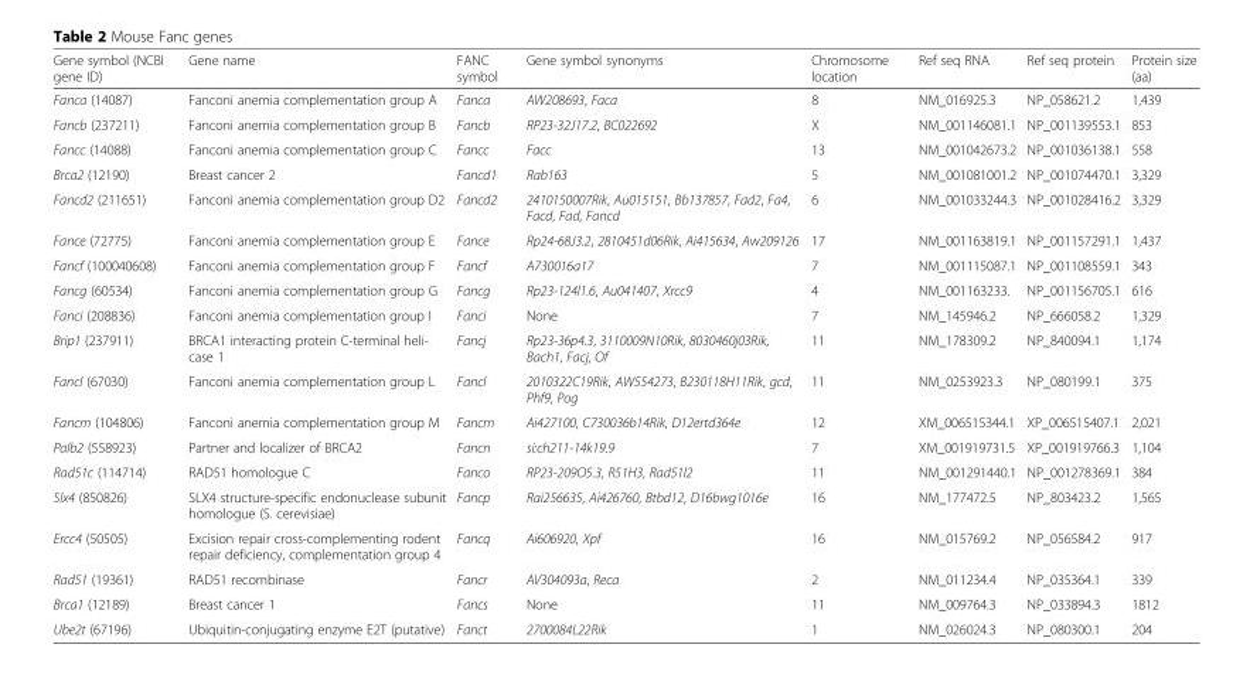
<table><thead><tr><td>Gene symbol (NCBI gene ID)</td><td>Gene name</td><td>FANC symbol</td><td>Gene symbol synonyms</td><td>Chromosome location</td><td>Ref seq RNA</td><td>Ref seq protein</td><td>Protein size (aa)</td></tr></thead><tbody><tr><td>Fanca (14087)</td><td>Fanconi anemia complementation group A</td><td>Fanca</td><td>AW208693, Faca</td><td>8</td><td>NM_016925.3</td><td>NP_058621.2</td><td>1,439</td></tr><tr><td>Fancb (237211)</td><td>Fanconi anemia complementation group B</td><td>Fancb</td><td>RP23-32J17.2, BC022692</td><td>X</td><td>NM_001146081.1</td><td>NP_001139553.1</td><td>853</td></tr><tr><td>Fancc (14088)</td><td>Fanconi anemia complementation group C</td><td>Fancc</td><td>Facc</td><td>13</td><td>NM_001042673.2</td><td>NP_001036138.1</td><td>558</td></tr><tr><td>Brca2 (12190)</td><td>Breast cancer 2</td><td>Fancd1</td><td>Rab163</td><td>5</td><td>NM_001081001.2</td><td>NP_001074470.1</td><td>3,329</td></tr><tr><td>Fancd2 (211651)</td><td>Fanconi anemia complementation group D2</td><td>Fancd2</td><td>2410150007Rik, Au015151, Bb137857, Fad2, Fa4, Facd, Fad, Fancd</td><td>6</td><td>NM_001033244.3</td><td>NP_001028416.2</td><td>3,329</td></tr><tr><td>Fance (72775)</td><td>Fanconi anemia complementation group E</td><td>Fance</td><td>Rp24-68J3.2, 2810451d06Rik, Ai415634, Aw209126</td><td>17</td><td>NM_001163819.1</td><td>NP_001157291.1</td><td>1,437</td></tr><tr><td>Fancf (100040608)</td><td>Fanconi anemia complementation group F</td><td>Fancf</td><td>A730016a17</td><td>7</td><td>NM_001115087.1</td><td>NP_001108559.1</td><td>343</td></tr><tr><td>Fancg (60534)</td><td>Fanconi anemia complementation group G</td><td>Fancg</td><td>Rp23-124l1.6, Au041407, Xrcc9</td><td>4</td><td>NM_001163233.</td><td>NP_001156705.1</td><td>616</td></tr><tr><td>Fanci (208836)</td><td>Fanconi anemia complementation group I</td><td>Fanci</td><td>None</td><td>7</td><td>NM_145946.2</td><td>NP_666058.2</td><td>1,329</td></tr><tr><td>Brip1 (237911)</td><td>BRCA1 interacting protein C-terminal heli- case 1</td><td>Fancj</td><td>Rp23-36p4.3, 3110009N10Rik, 8030460j03Rik, Bach1, Facj, Of</td><td>11</td><td>NM_178309.2</td><td>NP_840094.1</td><td>1,174</td></tr><tr><td>Fancl (67030)</td><td>Fanconi anemia complementation group L</td><td>Fancl</td><td>2010322C19Rik, AW554273, B230118H11Rik, gcd, Phf9, Pog</td><td>11</td><td>NM_0253923.3</td><td>NP_080199.1</td><td>375</td></tr><tr><td>Fancm (104806)</td><td>Fanconi anemia complementation group M</td><td>Fancm</td><td>Ai427100, C730036b14Rik, D12ertd364e</td><td>12</td><td>XM_006515344.1</td><td>XP_006515407.1</td><td>2,021</td></tr><tr><td>Palb2 (558923)</td><td>Partner and localizer of BRCA2</td><td>Fancn</td><td>si:ch211-14k19.9</td><td>7</td><td>XM_001919731.5</td><td>XP_001919766.3</td><td>1,104</td></tr><tr><td>Rad51c (114714)</td><td>RAD51 homologue C</td><td>Fanco</td><td>RP23-209O5.3, R51H3, Rad51l2</td><td>11</td><td>NM_001291440.1</td><td>NP_001278369.1</td><td>384</td></tr><tr><td>Slx4 (850826)</td><td>SLX4 structure-specific endonuclease subunit homologue (S. cerevisiae)</td><td>Fancp</td><td>Rai256635, Ai426760, Btbd12, D16bwg1016e</td><td>16</td><td>NM_177472.5</td><td>NP_803423.2</td><td>1,565</td></tr><tr><td>Ercc4 (50505)</td><td>Excision repair cross-complementing rodent repair deficiency, complementation group 4</td><td>Fancq</td><td>Ai606920, Xpf</td><td>16</td><td>NM_015769.2</td><td>NP_056584.2</td><td>917</td></tr><tr><td>Rad51 (19361)</td><td>RAD51 recombinase</td><td>Fancr</td><td>AV304093a, Reca</td><td>2</td><td>NM_011234.4</td><td>NP_035364.1</td><td>339</td></tr><tr><td>Brca1 (12189)</td><td>Breast cancer 1</td><td>Fancs</td><td>None</td><td>11</td><td>NM_009764.3</td><td>NP_033894.3</td><td>1812</td></tr><tr><td>Ube2t (67196)</td><td>Ubiquitin-conjugating enzyme E2T (putative)</td><td>Fanct</td><td>2700084L22Rik</td><td>1</td><td>NM_026024.3</td><td>NP_080300.1</td><td>204</td></tr></tbody></table>